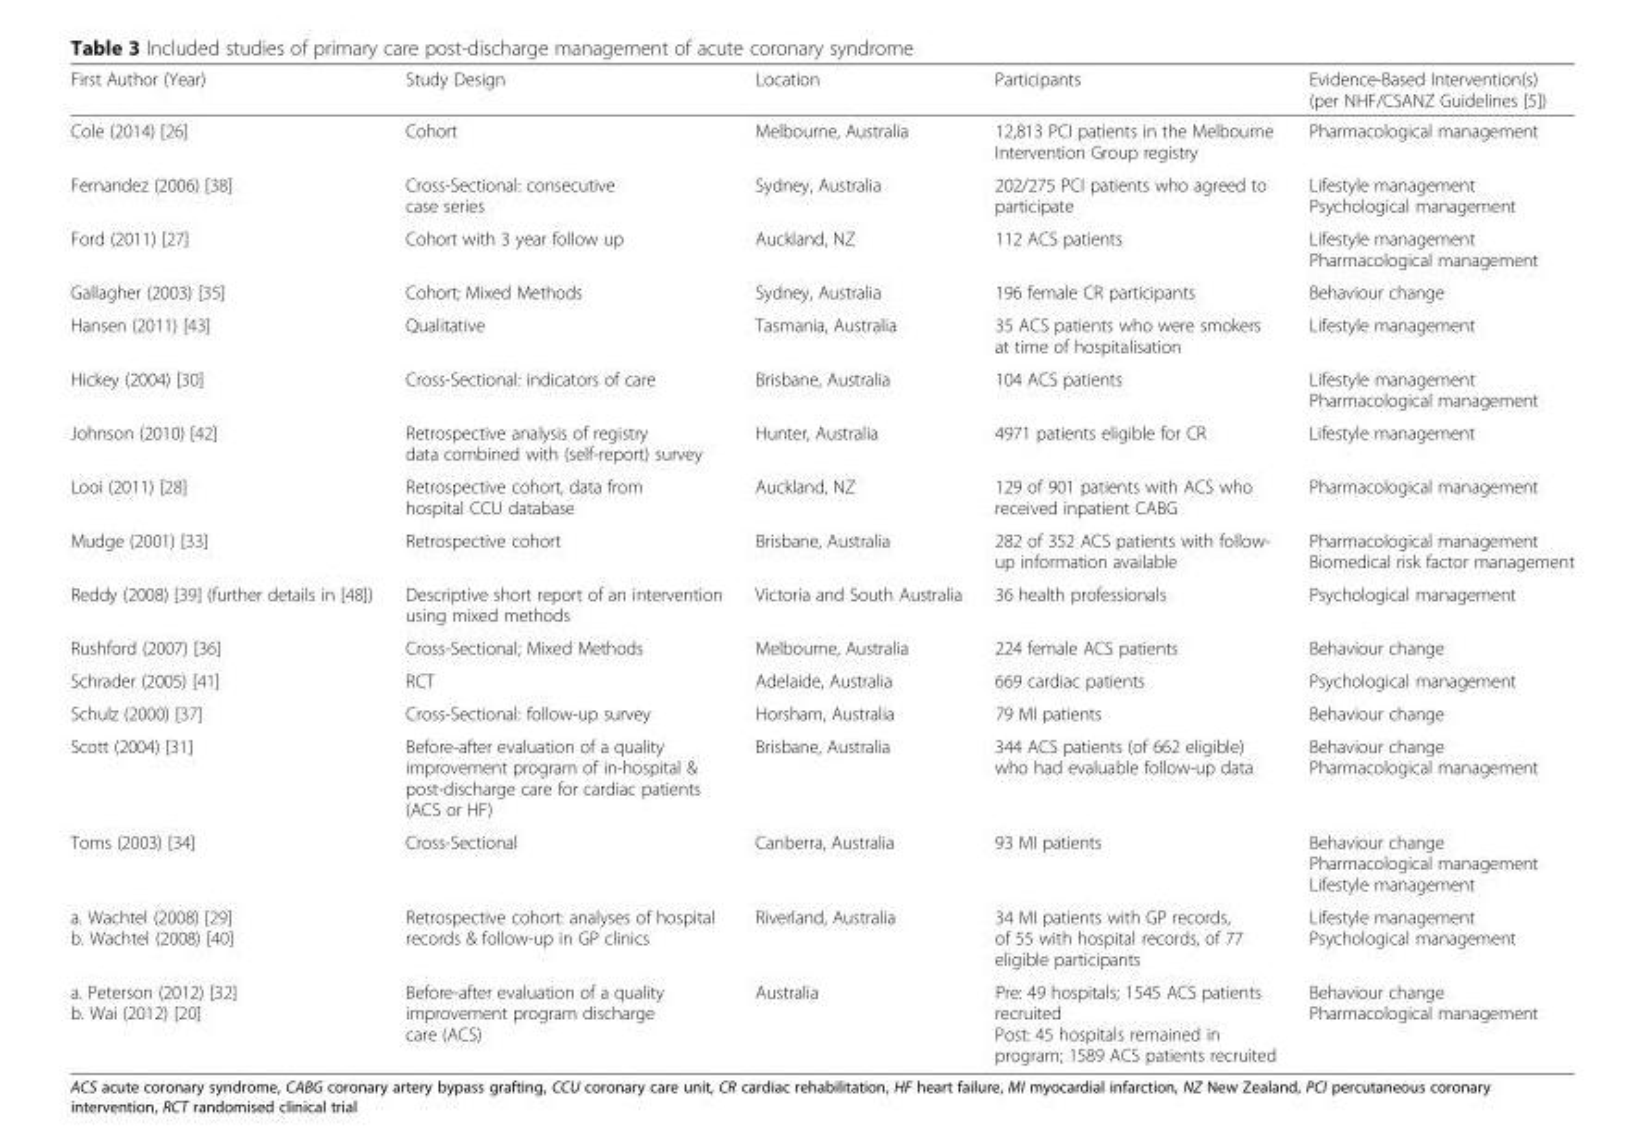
<table><thead><tr><td>First Author (Year)</td><td>Study Design</td><td>Location</td><td>Participants</td><td>Evidence-Based Intervention(s) (per NHF/CSANZ Guidelines [5])</td></tr></thead><tbody><tr><td>Cole (2014) [26]</td><td>Cohort</td><td>Melbourne, Australia</td><td>12,813 PCI patients in the Melbourne Intervention Group registry</td><td>Pharmacological management</td></tr><tr><td>Fernandez (2006) [38]</td><td>Cross-Sectional: consecutive case series</td><td>Sydney, Australia</td><td>202/275 PCI patients who agreed to participate</td><td>Lifestyle management Psychological management</td></tr><tr><td>Ford (2011) [27]</td><td>Cohort with 3 year follow up</td><td>Auckland, NZ</td><td>112 ACS patients</td><td>Lifestyle management Pharmacological management</td></tr><tr><td>Gallagher (2003) [35]</td><td>Cohort; Mixed Methods</td><td>Sydney, Australia</td><td>196 female CR participants</td><td>Behaviour change</td></tr><tr><td>Hansen (2011) [43]</td><td>Qualitative</td><td>Tasmania, Australia</td><td>35 ACS patients who were smokers at time of hospitalisation</td><td>Lifestyle management</td></tr><tr><td>Hickey (2004) [30]</td><td>Cross-Sectional: indicators of care</td><td>Brisbane, Australia</td><td>104 ACS patients</td><td>Lifestyle management Pharmacological management</td></tr><tr><td>Johnson (2010) [42]</td><td>Retrospective analysis of registry data combined with (self-report) survey</td><td>Hunter, Australia</td><td>4971 patients eligible for CR</td><td>Lifestyle management</td></tr><tr><td>Looi (2011) [28]</td><td>Retrospective cohort, data from hospital CCU database</td><td>Auckland, NZ</td><td>129 of 901 patients with ACS who received inpatient CABG</td><td>Pharmacological management</td></tr><tr><td>Mudge (2001) [33]</td><td>Retrospective cohort</td><td>Brisbane, Australia</td><td>282 of 352 ACS patients with follow- up information available</td><td>Pharmacological management Biomedical risk factor management</td></tr><tr><td>Reddy (2008) [39] (further details in [48])</td><td>Descriptive short report of an intervention using mixed methods</td><td>Victoria and South Australia</td><td>36 health professionals</td><td>Psychological management</td></tr><tr><td>Rushford (2007) [36]</td><td>Cross-Sectional; Mixed Methods</td><td>Melbourne, Australia</td><td>224 female ACS patients</td><td>Behaviour change</td></tr><tr><td>Schrader (2005) [41]</td><td>RCT</td><td>Adelaide, Australia</td><td>669 cardiac patients</td><td>Psychological management</td></tr><tr><td>Schulz (2000) [37]</td><td>Cross-Sectional: follow-up survey</td><td>Horsham, Australia</td><td>79 MI patients</td><td>Behaviour change</td></tr><tr><td>Scott (2004) [31]</td><td>Before-after evaluation of a quality improvement program of in-hospital &amp; post-discharge care for cardiac patients (ACS or HF)</td><td>Brisbane, Australia</td><td>344 ACS patients (of 662 eligible) who had evaluable follow-up data</td><td>Behaviour change Pharmacological management</td></tr><tr><td>Toms (2003) [34]</td><td>Cross-Sectional</td><td>Canberra, Australia</td><td>93 MI patients</td><td>Behaviour change Pharmacological management Lifestyle management</td></tr><tr><td>a. Wachtel (2008) [29] b. Wachtel (2008) [40]</td><td>Retrospective cohort: analyses of hospital records &amp; follow-up in GP clinics</td><td>Riverland, Australia</td><td>34 MI patients with GP records, of 55 with hospital records, of 77 eligible participants</td><td>Lifestyle management Psychological management</td></tr><tr><td>a. Peterson (2012) [32] b. Wai (2012) [20]</td><td>Before-after evaluation of a quality improvement program discharge care (ACS)</td><td>Australia</td><td>Pre: 49 hospitals; 1545 ACS patients recruited Post: 45 hospitals remained in program; 1589 ACS patients recruited</td><td>Behaviour change Pharmacological management</td></tr></tbody></table>